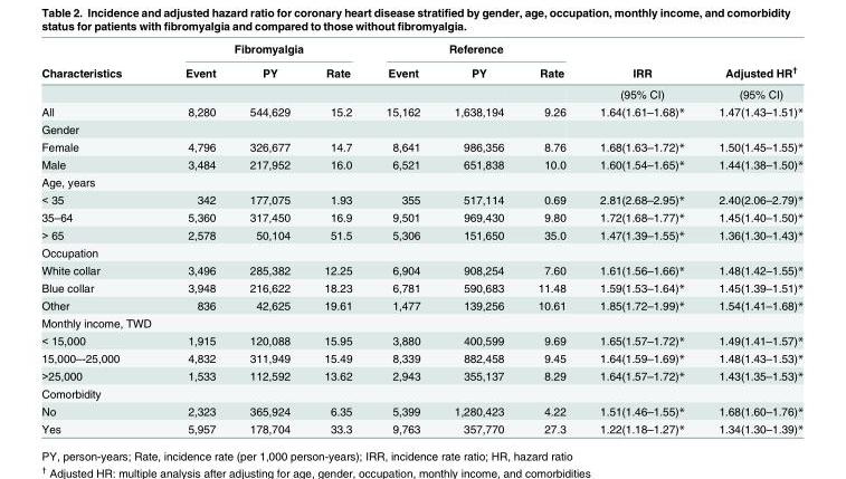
<table><thead><tr><td rowspan="2">Characteristics</td><td colspan="3">Fibromyalgia</td><td colspan="3">Reference</td><td rowspan="2">IRR</td><td rowspan="2">Adjusted HR<sup>†</sup></td></tr><tr><td>Event</td><td>PY</td><td>Rate</td><td>Event</td><td>PY</td><td>Rate</td></tr></thead><tbody><tr><td></td><td></td><td></td><td></td><td></td><td></td><td></td><td>(95% CI)</td><td>(95% CI)</td></tr><tr><td>All</td><td>8,280</td><td>544,629</td><td>15.2</td><td>15,162</td><td>1,638,194</td><td>9.26</td><td>1.64(1.61–1.68)*</td><td>1.47(1.43–1.51)*</td></tr><tr><td colspan="9">Gender</td></tr><tr><td>Female</td><td>4,796</td><td>326,677</td><td>14.7</td><td>8,641</td><td>986,356</td><td>8.76</td><td>1.68(1.63–1.72)*</td><td>1.50(1.45–1.55)*</td></tr><tr><td>Male</td><td>3,484</td><td>217,952</td><td>16.0</td><td>6,521</td><td>651,838</td><td>10.0</td><td>1.60(1.54–1.65)*</td><td>1.44(1.38–1.50)*</td></tr><tr><td colspan="9">Age, years</td></tr><tr><td>&lt; 35</td><td>342</td><td>177,075</td><td>1.93</td><td>355</td><td>517,114</td><td>0.69</td><td>2.81(2.68–2.95)*</td><td>2.40(2.06–2.79)*</td></tr><tr><td>35–64</td><td>5,360</td><td>317,450</td><td>16.9</td><td>9,501</td><td>969,430</td><td>9.80</td><td>1.72(1.68–1.77)*</td><td>1.45(1.40–1.50)*</td></tr><tr><td>&gt; 65</td><td>2,578</td><td>50,104</td><td>51.5</td><td>5,306</td><td>151,650</td><td>35.0</td><td>1.47(1.39–1.55)*</td><td>1.36(1.30–1.43)*</td></tr><tr><td colspan="9">Occupation</td></tr><tr><td>White collar</td><td>3,496</td><td>285,382</td><td>12.25</td><td>6,904</td><td>908,254</td><td>7.60</td><td>1.61(1.56–1.66)*</td><td>1.48(1.42–1.55)*</td></tr><tr><td>Blue collar</td><td>3,948</td><td>216,622</td><td>18.23</td><td>6,781</td><td>590,683</td><td>11.48</td><td>1.59(1.53–1.64)*</td><td>1.45(1.39–1.51)*</td></tr><tr><td>Other</td><td>836</td><td>42,625</td><td>19.61</td><td>1,477</td><td>139,256</td><td>10.61</td><td>1.85(1.72–1.99)*</td><td>1.54(1.41–1.68)*</td></tr><tr><td colspan="9">Monthly income, TWD</td></tr><tr><td>&lt; 15,000</td><td>1,915</td><td>120,088</td><td>15.95</td><td>3,880</td><td>400,599</td><td>9.69</td><td>1.65(1.57–1.72)*</td><td>1.49(1.41–1.57)*</td></tr><tr><td>15,000–-25,000</td><td>4,832</td><td>311,949</td><td>15.49</td><td>8,339</td><td>882,458</td><td>9.45</td><td>1.64(1.59–1.69)*</td><td>1.48(1.43–1.53)*</td></tr><tr><td>&gt;25,000</td><td>1,533</td><td>112,592</td><td>13.62</td><td>2,943</td><td>355,137</td><td>8.29</td><td>1.64(1.57–1.72)*</td><td>1.43(1.35–1.53)*</td></tr><tr><td colspan="9">Comorbidity</td></tr><tr><td>No</td><td>2,323</td><td>365,924</td><td>6.35</td><td>5,399</td><td>1,280,423</td><td>4.22</td><td>1.51(1.46–1.55)*</td><td>1.68(1.60–1.76)*</td></tr><tr><td>Yes</td><td>5,957</td><td>178,704</td><td>33.3</td><td>9,763</td><td>357,770</td><td>27.3</td><td>1.22(1.18–1.27)*</td><td>1.34(1.30–1.39)*</td></tr></tbody></table>